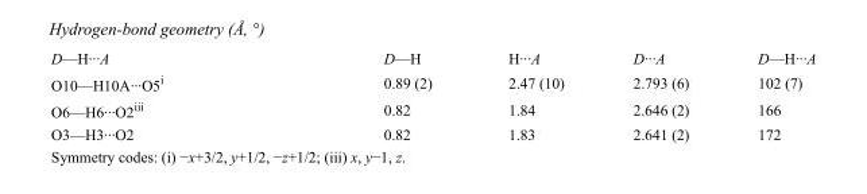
<table><tbody><tr><td>D—H···A</td><td>D—H</td><td>H···A</td><td>D···A</td><td>D—H···A</td></tr><tr><td>O10—H10A···O5<sup>i</sup></td><td>0.89 (2)</td><td>2.47 (10)</td><td>2.793 (6)</td><td>102 (7)</td></tr><tr><td>O6—H6···O2<sup>iii</sup></td><td>0.82</td><td>1.84</td><td>2.646 (2)</td><td>166</td></tr><tr><td>O3—H3···O2</td><td>0.82</td><td>1.83</td><td>2.641 (2)</td><td>172</td></tr></tbody></table>